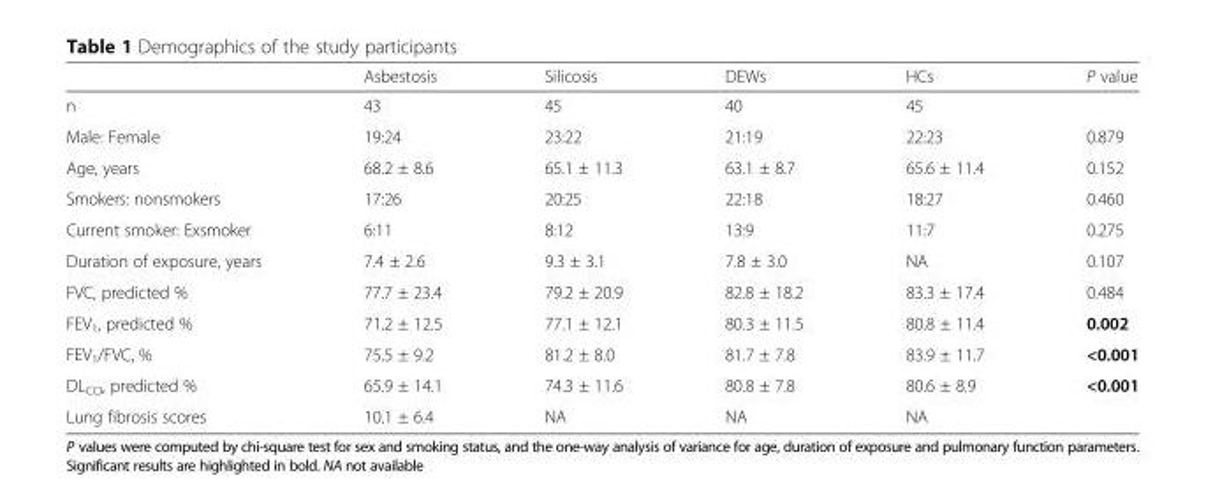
<table><thead><tr><td></td><td>Asbestosis</td><td>Silicosis</td><td>DEWs</td><td>HCs</td><td>P value</td></tr></thead><tbody><tr><td>n</td><td>43</td><td>45</td><td>40</td><td>45</td><td></td></tr><tr><td>Male: Female</td><td>19:24</td><td>23:22</td><td>21:19</td><td>22:23</td><td>0.879</td></tr><tr><td>Age, years</td><td>68.2 ± 8.6</td><td>65.1 ± 11.3</td><td>63.1 ± 8.7</td><td>65.6 ± 11.4</td><td>0.152</td></tr><tr><td>Smokers: nonsmokers</td><td>17:26</td><td>20:25</td><td>22:18</td><td>18:27</td><td>0.460</td></tr><tr><td>Current smoker: Exsmoker</td><td>6:11</td><td>8:12</td><td>13:9</td><td>11:7</td><td>0.275</td></tr><tr><td>Duration of exposure, years</td><td>7.4 ± 2.6</td><td>9.3 ± 3.1</td><td>7.8 ± 3.0</td><td>NA</td><td>0.107</td></tr><tr><td>FVC, predicted %</td><td>77.7 ± 23.4</td><td>79.2 ± 20.9</td><td>82.8 ± 18.2</td><td>83.3 ± 17.4</td><td>0.484</td></tr><tr><td>FEV<sub>1</sub>, predicted %</td><td>71.2 ± 12.5</td><td>77.1 ± 12.1</td><td>80.3 ± 11.5</td><td>80.8 ± 11.4</td><td>0.002</td></tr><tr><td>FEV<sub>1</sub>/FVC, %</td><td>75.5 ± 9.2</td><td>81.2 ± 8.0</td><td>81.7 ± 7.8</td><td>83.9 ± 11.7</td><td>&lt;0.001</td></tr><tr><td>DL<sub>CO</sub>, predicted %</td><td>65.9 ± 14.1</td><td>74.3 ± 11.6</td><td>80.8 ± 7.8</td><td>80.6 ± 8.9</td><td>&lt;0.001</td></tr><tr><td>Lung fibrosis scores</td><td>10.1 ± 6.4</td><td>NA</td><td>NA</td><td>NA</td><td></td></tr></tbody></table>